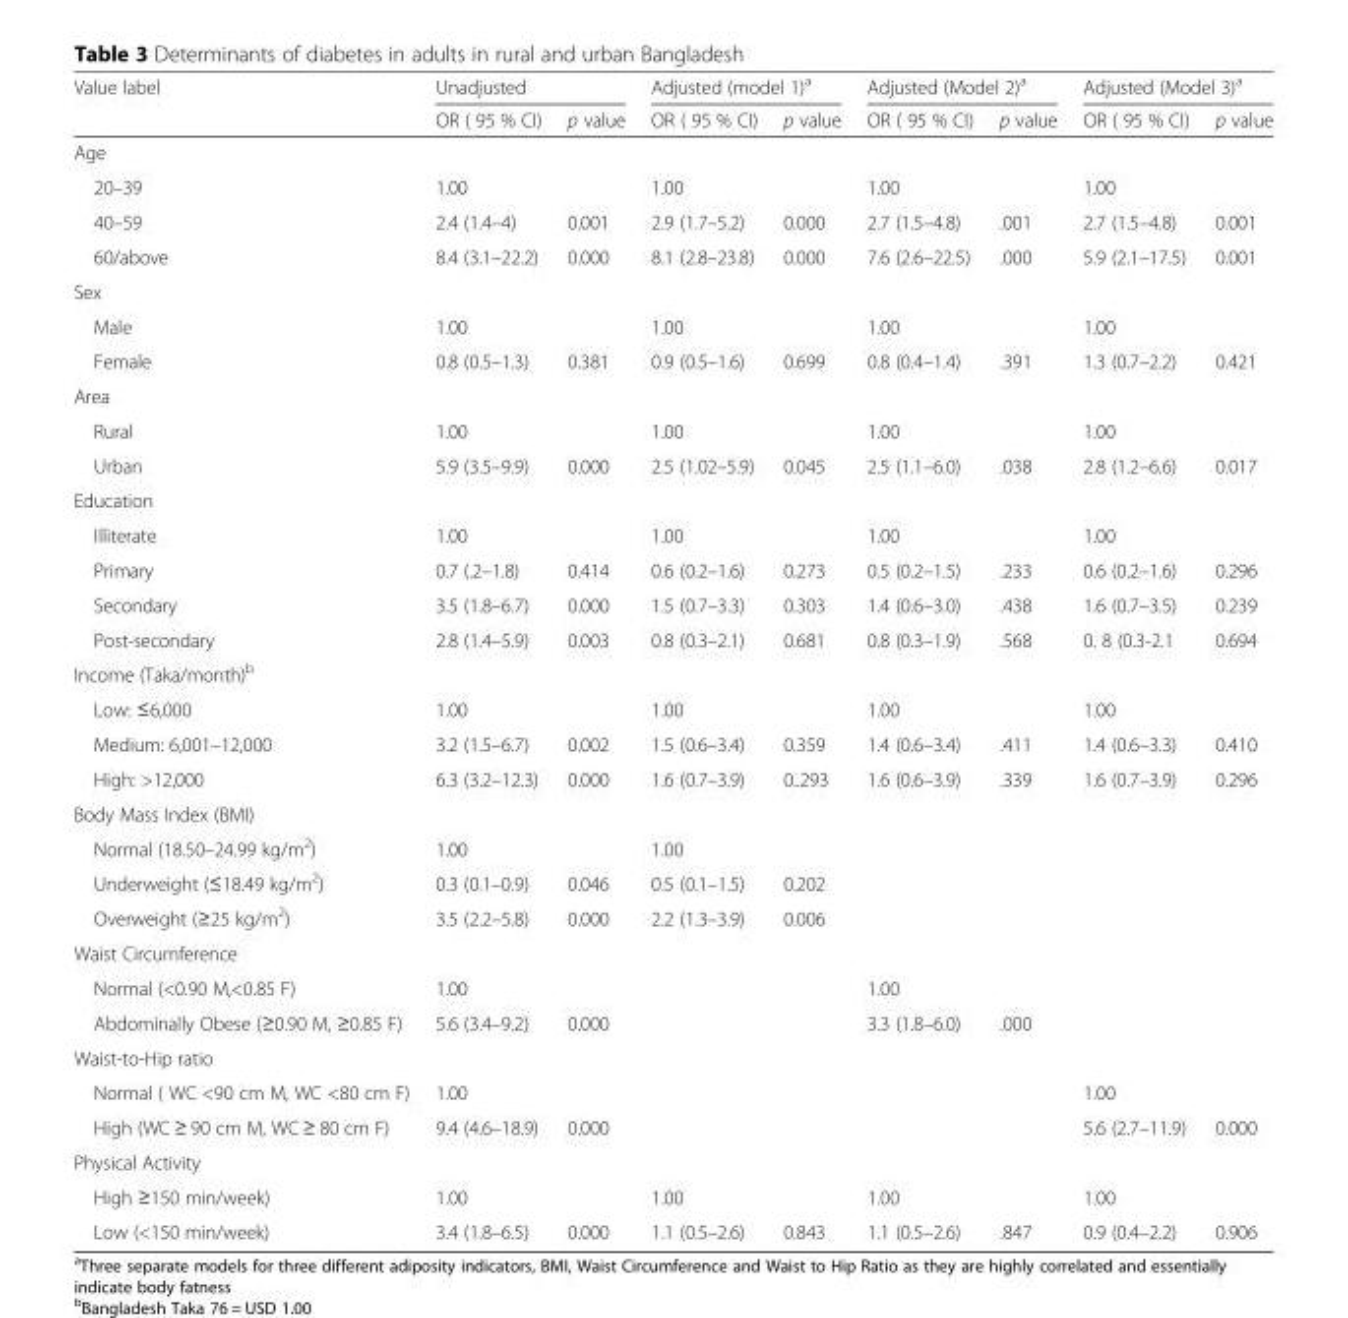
<table><thead><tr><td rowspan="2">Value label</td><td colspan="2">Unadjusted</td><td colspan="2">Adjusted (model 1)<sup>a</sup></td><td colspan="2">Adjusted (Model 2)<sup>a</sup></td><td colspan="2">Adjusted (Model 3)<sup>a</sup></td></tr><tr><td>OR ( 95 % CI)</td><td>p value</td><td>OR ( 95 % CI)</td><td>p value</td><td>OR ( 95 % CI)</td><td>p value</td><td>OR ( 95 % CI)</td><td>p value</td></tr></thead><tbody><tr><td colspan="9">Age</td></tr><tr><td>20–39</td><td>1.00</td><td></td><td>1.00</td><td></td><td>1.00</td><td></td><td>1.00</td><td></td></tr><tr><td>40–59</td><td>2.4 (1.4–4)</td><td>0.001</td><td>2.9 (1.7–5.2)</td><td>0.000</td><td>2.7 (1.5–4.8)</td><td>.001</td><td>2.7 (1.5–4.8)</td><td>0.001</td></tr><tr><td>60/above</td><td>8.4 (3.1–22.2)</td><td>0.000</td><td>8.1 (2.8–23.8)</td><td>0.000</td><td>7.6 (2.6–22.5)</td><td>.000</td><td>5.9 (2.1–17.5)</td><td>0.001</td></tr><tr><td colspan="9">Sex</td></tr><tr><td>Male</td><td>1.00</td><td></td><td>1.00</td><td></td><td>1.00</td><td></td><td>1.00</td><td></td></tr><tr><td>Female</td><td>0.8 (0.5–1.3)</td><td>0.381</td><td>0.9 (0.5–1.6)</td><td>0.699</td><td>0.8 (0.4–1.4)</td><td>.391</td><td>1.3 (0.7–2.2)</td><td>0.421</td></tr><tr><td colspan="9">Area</td></tr><tr><td>Rural</td><td>1.00</td><td></td><td>1.00</td><td></td><td>1.00</td><td></td><td>1.00</td><td></td></tr><tr><td>Urban</td><td>5.9 (3.5–9.9)</td><td>0.000</td><td>2.5 (1.02–5.9)</td><td>0.045</td><td>2.5 (1.1–6.0)</td><td>.038</td><td>2.8 (1.2–6.6)</td><td>0.017</td></tr><tr><td colspan="9">Education</td></tr><tr><td>Illiterate</td><td>1.00</td><td></td><td>1.00</td><td></td><td>1.00</td><td></td><td>1.00</td><td></td></tr><tr><td>Primary</td><td>0.7 (.2–1.8)</td><td>0.414</td><td>0.6 (0.2–1.6)</td><td>0.273</td><td>0.5 (0.2–1.5)</td><td>.233</td><td>0.6 (0.2–1.6)</td><td>0.296</td></tr><tr><td>Secondary</td><td>3.5 (1.8–6.7)</td><td>0.000</td><td>1.5 (0.7–3.3)</td><td>0.303</td><td>1.4 (0.6–3.0)</td><td>.438</td><td>1.6 (0.7–3.5)</td><td>0.239</td></tr><tr><td>Post-secondary</td><td>2.8 (1.4–5.9)</td><td>0.003</td><td>0.8 (0.3–2.1)</td><td>0.681</td><td>0.8 (0.3–1.9)</td><td>.568</td><td>0. 8 (0.3-2.1</td><td>0.694</td></tr><tr><td colspan="9">Income (Taka/month)<sup>b</sup></td></tr><tr><td>Low: ≤6,000</td><td>1.00</td><td></td><td>1.00</td><td></td><td>1.00</td><td></td><td>1.00</td><td></td></tr><tr><td>Medium: 6,001–12,000</td><td>3.2 (1.5–6.7)</td><td>0.002</td><td>1.5 (0.6–3.4)</td><td>0.359</td><td>1.4 (0.6–3.4)</td><td>.411</td><td>1.4 (0.6–3.3)</td><td>0.410</td></tr><tr><td>High: &gt;12,000</td><td>6.3 (3.2–12.3)</td><td>0.000</td><td>1.6 (0.7–3.9)</td><td>0..293</td><td>1.6 (0.6–3.9)</td><td>.339</td><td>1.6 (0.7–3.9)</td><td>0.296</td></tr><tr><td colspan="9">Body Mass Index (BMI)</td></tr><tr><td>Normal (18.50–24.99 kg/m<sup>2</sup>)</td><td>1.00</td><td></td><td>1.00</td><td></td><td></td><td></td><td></td><td></td></tr><tr><td>Underweight (≤18.49 kg/m<sup>2</sup>)</td><td>0.3 (0.1–0.9)</td><td>0.046</td><td>0.5 (0.1–1.5)</td><td>0.202</td><td></td><td></td><td></td><td></td></tr><tr><td>Overweight (≥25 kg/m<sup>2</sup>)</td><td>3.5 (2.2–5.8)</td><td>0.000</td><td>2.2 (1.3–3.9)</td><td>0.006</td><td></td><td></td><td></td><td></td></tr><tr><td colspan="9">Waist Circumference</td></tr><tr><td>Normal (&lt;0.90 M,&lt;0.85 F)</td><td>1.00</td><td></td><td></td><td></td><td>1.00</td><td></td><td></td><td></td></tr><tr><td>Abdominally Obese (≥0.90 M, ≥0.85 F)</td><td>5.6 (3.4–9.2)</td><td>0.000</td><td></td><td></td><td>3.3 (1.8–6.0)</td><td>.000</td><td></td><td></td></tr><tr><td colspan="9">Waist-to-Hip ratio</td></tr><tr><td>Normal ( WC &lt;90 cm M, WC &lt;80 cm F)</td><td>1.00</td><td></td><td></td><td></td><td></td><td></td><td>1.00</td><td></td></tr><tr><td>High (WC ≥ 90 cm M, WC ≥ 80 cm F)</td><td>9.4 (4.6–18.9)</td><td>0.000</td><td></td><td></td><td></td><td></td><td>5.6 (2.7–11.9)</td><td>0.000</td></tr><tr><td colspan="9">Physical Activity</td></tr><tr><td>High ≥150 min/week)</td><td>1.00</td><td></td><td>1.00</td><td></td><td>1.00</td><td></td><td>1.00</td><td></td></tr><tr><td>Low (&lt;150 min/week)</td><td>3.4 (1.8–6.5)</td><td>0.000</td><td>1.1 (0.5–2.6)</td><td>0.843</td><td>1.1 (0.5–2.6)</td><td>.847</td><td>0.9 (0.4–2.2)</td><td>0.906</td></tr></tbody></table>